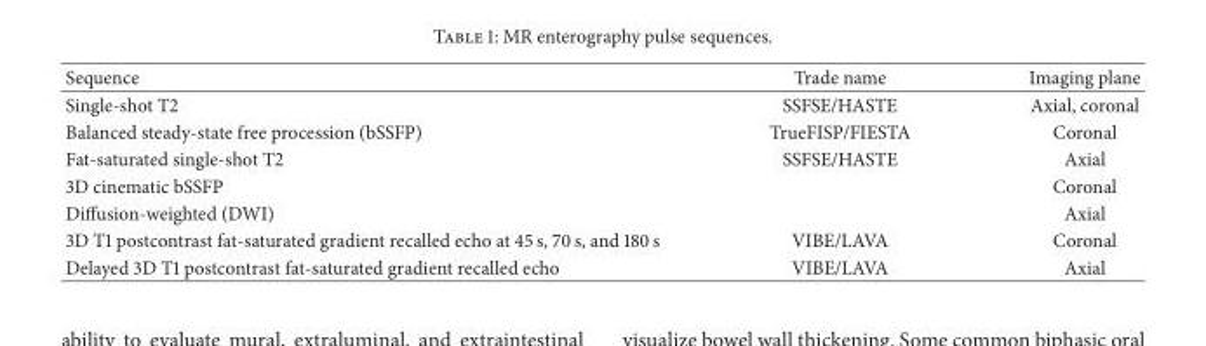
<table><thead><tr><td>Sequence</td><td>Trade name</td><td>Imaging plane</td></tr></thead><tbody><tr><td>Single-shot T2</td><td>SSFSE/HASTE</td><td>Axial, coronal</td></tr><tr><td>Balanced steady-state free procession (bSSFP)</td><td>TrueFISP/FIESTA</td><td>Coronal</td></tr><tr><td>Fat-saturated single-shot T2</td><td>SSFSE/HASTE</td><td>Axial</td></tr><tr><td>3D cinematic bSSFP</td><td></td><td>Coronal</td></tr><tr><td>Diffusion-weighted (DWI)</td><td></td><td>Axial</td></tr><tr><td>3D T1 postcontrast fat-saturated gradient recalled echo at 45 s, 70 s, and 180 s</td><td>VIBE/LAVA</td><td>Coronal</td></tr><tr><td>Delayed 3D T1 postcontrast fat-saturated gradient recalled echo</td><td>VIBE/LAVA</td><td>Axial</td></tr></tbody></table>